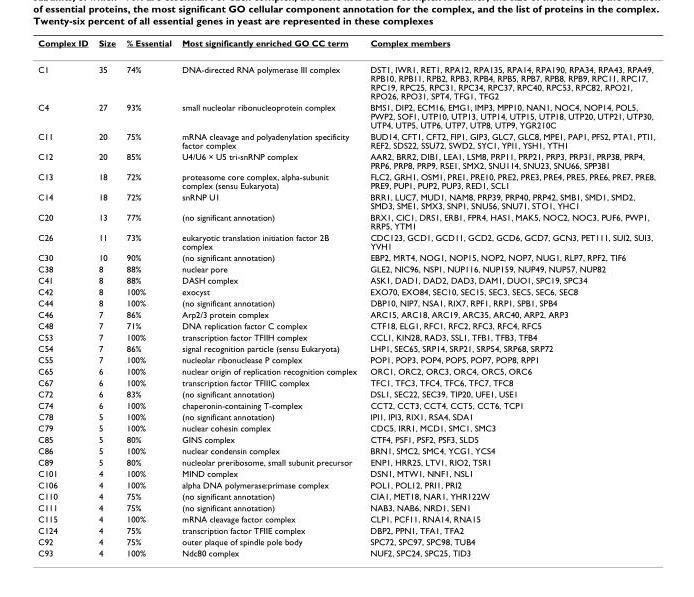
<table><thead><tr><td>Complex ID</td><td>Size</td><td>% Essential</td><td>Most significantly enriched GO CC term</td><td>Complex members</td></tr></thead><tbody><tr><td>C1</td><td>35</td><td>74%</td><td>DNA-directed RNA polymerase III complex</td><td>DST1, IWR1, RET1, RPA12, RPA135, RPA14, RPA190, RPA34, RPA43, RPA49, RPB10, RPB11, RPB2, RPB3, RPB4, RPB5, RPB7, RPB8, RPB9, RPC11, RPC17, RPC19, RPC25, RPC31, RPC34, RPC37, RPC40, RPC53, RPC82, RPO21, RPO26, RPO31, SPT4, TFG1, TFG2</td></tr><tr><td>C4</td><td>27</td><td>93%</td><td>small nucleolar ribonucleoprotein complex</td><td>BMS1, DIP2, ECM16, EMG1, IMP3, MPP10, NAN1, NOC4, NOP14, POL5, PWP2, SOF1, UTP10, UTP13, UTP14, UTP15, UTP18, UTP20, UTP21, UTP30, UTP4, UTP5, UTP6, UTP7, UTP8, UTP9, YGR210C</td></tr><tr><td>C11</td><td>20</td><td>75%</td><td>mRNA cleavage and polyadenylation specificity factor complex</td><td>BUD14, CFT1, CFT2, FIP1, GIP3, GLC7, GLC8, MPE1, PAP1, PFS2, PTA1, PTI1, REF2, SDS22, SSU72, SWD2, SYC1, YPI1, YSH1, YTH1</td></tr><tr><td>C12</td><td>20</td><td>85%</td><td>U4/U6 × U5 tri-snRNP complex</td><td>AAR2, BRR2, DIB1, LEA1, LSM8, PRP11, PRP21, PRP3, PRP31, PRP38, PRP4, PRP6, PRP8, PRP9, RSE1, SMX2, SNU114, SNU23, SNU66, SPP381</td></tr><tr><td>C13</td><td>18</td><td>72%</td><td>proteasome core complex, alpha-subunit complex (sensu Eukaryota)</td><td>FLC2, GRH1, OSM1, PRE1, PRE10, PRE2, PRE3, PRE4, PRE5, PRE6, PRE7, PRE8, PRE9, PUP1, PUP2, PUP3, RED1, SCL1</td></tr><tr><td>C14</td><td>18</td><td>72%</td><td>snRNP U1</td><td>BRR1, LUC7, MUD1, NAM8, PRP39, PRP40, PRP42, SMB1, SMD1, SMD2, SMD3, SME1, SMX3, SNP1, SNU56, SNU71, STO1, YHC1</td></tr><tr><td>C20</td><td>13</td><td>77%</td><td>(no significant annotation)</td><td>BRX1, CIC1, DRS1, ERB1, FPR4, HAS1, MAK5, NOC2, NOC3, PUF6, PWP1, RRP5, YTM1</td></tr><tr><td>C26</td><td>11</td><td>73%</td><td>eukaryotic translation initiation factor 2B complex</td><td>CDC123, GCD1, GCD11, GCD2, GCD6, GCD7, GCN3, PET111, SUI2, SUI3, YVH1</td></tr><tr><td>C30</td><td>10</td><td>90%</td><td>(no significant annotation)</td><td>EBP2, MRT4, NOG1, NOP15, NOP2, NOP7, NUG1, RLP7, RPF2, TIF6</td></tr><tr><td>C38</td><td>8</td><td>88%</td><td>nuclear pore</td><td>GLE2, NIC96, NSP1, NUP116, NUP159, NUP49, NUP57, NUP82</td></tr><tr><td>C41</td><td>8</td><td>88%</td><td>DASH complex</td><td>ASK1, DAD1, DAD2, DAD3, DAM1, DUO1, SPC19, SPC34</td></tr><tr><td>C42</td><td>8</td><td>100%</td><td>exocyst</td><td>EXO70, EXO84, SEC10, SEC15, SEC3, SEC5, SEC6, SEC8</td></tr><tr><td>C44</td><td>8</td><td>100%</td><td>(no significant annotation)</td><td>DBP10, NIP7, NSA1, RIX7, RPF1, RRP1, SPB1, SPB4</td></tr><tr><td>C46</td><td>7</td><td>86%</td><td>Arp2/3 protein complex</td><td>ARC15, ARC18, ARC19, ARC35, ARC40, ARP2, ARP3</td></tr><tr><td>C48</td><td>7</td><td>71%</td><td>DNA replication factor C complex</td><td>CTF18, ELG1, RFC1, RFC2, RFC3, RFC4, RFC5</td></tr><tr><td>C53</td><td>7</td><td>100%</td><td>transcription factor TFIIH complex</td><td>CCL1, KIN28, RAD3, SSL1, TFB1, TFB3, TFB4</td></tr><tr><td>C54</td><td>7</td><td>86%</td><td>signal recognition particle (sensu Eukaryota)</td><td>LHP1, SEC65, SRP14, SRP21, SRP54, SRP68, SRP72</td></tr><tr><td>C55</td><td>7</td><td>100%</td><td>nucleolar ribonuclease P complex</td><td>POP1, POP3, POP4, POP5, POP7, POP8, RPP1</td></tr><tr><td>C65</td><td>6</td><td>100%</td><td>nuclear origin of replication recognition complex</td><td>ORC1, ORC2, ORC3, ORC4, ORC5, ORC6</td></tr><tr><td>C67</td><td>6</td><td>100%</td><td>transcription factor TFIIIC complex</td><td>TFC1, TFC3, TFC4, TFC6, TFC7, TFC8</td></tr><tr><td>C72</td><td>6</td><td>83%</td><td>(no significant annotation)</td><td>DSL1, SEC22, SEC39, TIP20, UFE1, USE1</td></tr><tr><td>C74</td><td>6</td><td>100%</td><td>chaperonin-containing T-complex</td><td>CCT2, CCT3, CCT4, CCT5, CCT6, TCP1</td></tr><tr><td>C78</td><td>5</td><td>100%</td><td>(no significant annotation)</td><td>IPI1, IPI3, RIX1, RSA4, SDA1</td></tr><tr><td>C79</td><td>5</td><td>100%</td><td>nuclear cohesin complex</td><td>CDC5, IRR1, MCD1, SMC1, SMC3</td></tr><tr><td>C85</td><td>5</td><td>80%</td><td>GINS complex</td><td>CTF4, PSF1, PSF2, PSF3, SLD5</td></tr><tr><td>C86</td><td>5</td><td>100%</td><td>nuclear condensin complex</td><td>BRN1, SMC2, SMC4, YCG1, YCS4</td></tr><tr><td>C89</td><td>5</td><td>80%</td><td>nucleolar preribosome, small subunit precursor</td><td>ENP1, HRR25, LTV1, RIO2, TSR1</td></tr><tr><td>C101</td><td>4</td><td>100%</td><td>MIND complex</td><td>DSN1, MTW1, NNF1, NSL1</td></tr><tr><td>C106</td><td>4</td><td>100%</td><td>alpha DNA polymerase:primase complex</td><td>POL1, POL12, PRI1, PRI2</td></tr><tr><td>C110</td><td>4</td><td>75%</td><td>(no significant annotation)</td><td>CIA1, MET18, NAR1, YHR122W</td></tr><tr><td>C111</td><td>4</td><td>75%</td><td>(no significant annotation)</td><td>NAB3, NAB6, NRD1, SEN1</td></tr><tr><td>C115</td><td>4</td><td>100%</td><td>mRNA cleavage factor complex</td><td>CLP1, PCF11, RNA14, RNA15</td></tr><tr><td>C124</td><td>4</td><td>75%</td><td>transcription factor TFIIE complex</td><td>DBP2, PPN1, TFA1, TFA2</td></tr><tr><td>C92</td><td>4</td><td>75%</td><td>outer plaque of spindle pole body</td><td>SPC72, SPC97, SPC98, TUB4</td></tr><tr><td>C93</td><td>4</td><td>100%</td><td>Ndc80 complex</td><td>NUF2, SPC24, SPC25, TID3</td></tr></tbody></table>